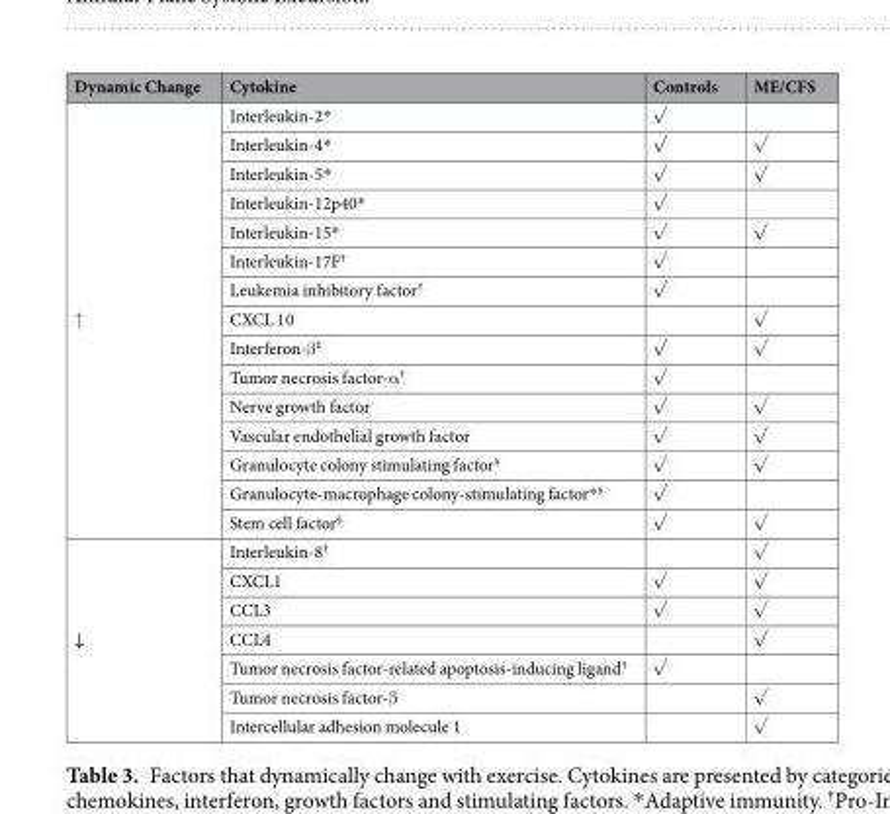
<table><thead><tr><td>Dynamic Change</td><td>Cytokine</td><td>Controls</td><td>ME/CFS</td></tr></thead><tbody><tr><td rowspan="15">↑</td><td>Interleukin-2*</td><td>√</td><td></td></tr><tr><td>Interleukin-4*</td><td>√</td><td>√</td></tr><tr><td>Interleukin-5*</td><td>√</td><td>√</td></tr><tr><td>Interleukin-12p40*</td><td>√</td><td></td></tr><tr><td>Interleukin-15*</td><td>√</td><td>√</td></tr><tr><td>Interleukin-17F<sup>†</sup></td><td>√</td><td></td></tr><tr><td>Leukemia inhibitory factor<sup>†</sup></td><td>√</td><td></td></tr><tr><td>CXCL 10</td><td></td><td>√</td></tr><tr><td>Interferon-β<sup>‡</sup></td><td>√</td><td>√</td></tr><tr><td>Tumor necrosis factor-α<sup>†</sup></td><td>√</td><td></td></tr><tr><td>Nerve growth factor</td><td>√</td><td>√</td></tr><tr><td>Vascular endothelial growth factor</td><td>√</td><td>√</td></tr><tr><td>Granulocyte colony stimulating factor<sup>§</sup></td><td>√</td><td>√</td></tr><tr><td>Granulocyte-macrophage colony-stimulating factor*<sup>§</sup></td><td>√</td><td></td></tr><tr><td>Stem cell factor<sup>§</sup></td><td>√</td><td>√</td></tr><tr><td rowspan="7">↓</td><td>Interleukin-8<sup>†</sup></td><td></td><td>√</td></tr><tr><td>CXCL1</td><td>√</td><td>√</td></tr><tr><td>CCL3</td><td>√</td><td>√</td></tr><tr><td>CCL4</td><td></td><td>√</td></tr><tr><td>Tumor necrosis factor-related apoptosis-inducing ligand<sup>†</sup></td><td>√</td><td></td></tr><tr><td>Tumor necrosis factor-β</td><td></td><td>√</td></tr><tr><td>Intercellular adhesion molecule 1</td><td></td><td>√</td></tr></tbody></table>